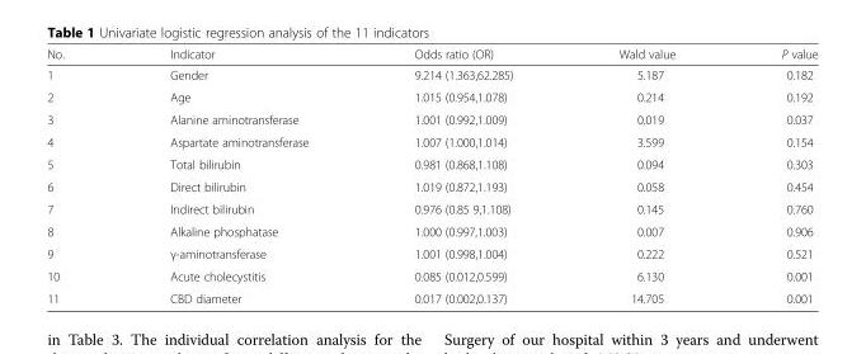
<table><thead><tr><td>No.</td><td>Indicator</td><td>Odds ratio (OR)</td><td>Wald value</td><td>P value</td></tr></thead><tbody><tr><td>1</td><td>Gender</td><td>9.214 (1.363,62.285)</td><td>5.187</td><td>0.182</td></tr><tr><td>2</td><td>Age</td><td>1.015 (0.954,1.078)</td><td>0.214</td><td>0.192</td></tr><tr><td>3</td><td>Alanine aminotransferase</td><td>1.001 (0.992,1.009)</td><td>0.019</td><td>0.037</td></tr><tr><td>4</td><td>Aspartate aminotransferase</td><td>1.007 (1.000,1.014)</td><td>3.599</td><td>0.154</td></tr><tr><td>5</td><td>Total bilirubin</td><td>0.981 (0.868,1.108)</td><td>0.094</td><td>0.303</td></tr><tr><td>6</td><td>Direct bilirubin</td><td>1.019 (0.872,1.193)</td><td>0.058</td><td>0.454</td></tr><tr><td>7</td><td>Indirect bilirubin</td><td>0.976 (0.85 9,1.108)</td><td>0.145</td><td>0.760</td></tr><tr><td>8</td><td>Alkaline phosphatase</td><td>1.000 (0.997,1.003)</td><td>0.007</td><td>0.906</td></tr><tr><td>9</td><td>γ-aminotransferase</td><td>1.001 (0.998,1.004)</td><td>0.222</td><td>0.521</td></tr><tr><td>10</td><td>Acute cholecystitis</td><td>0.085 (0.012,0.599)</td><td>6.130</td><td>0.001</td></tr><tr><td>11</td><td>CBD diameter</td><td>0.017 (0.002,0.137)</td><td>14.705</td><td>0.001</td></tr></tbody></table>